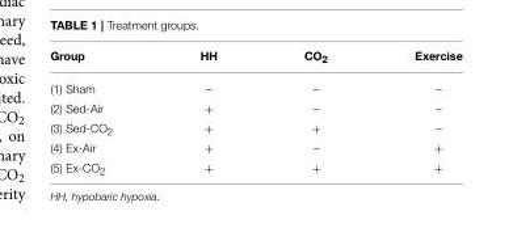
<table><thead><tr><td>Group</td><td>HH</td><td>CO<sub>2</sub></td><td>Exercise</td></tr></thead><tbody><tr><td>(1) Sham</td><td>–</td><td>–</td><td>–</td></tr><tr><td>(2) Sed-Air</td><td>+</td><td>–</td><td>–</td></tr><tr><td>(3) Sed-CO<sub>2</sub></td><td>+</td><td>+</td><td>–</td></tr><tr><td>(4) Ex-Air</td><td>+</td><td>–</td><td>+</td></tr><tr><td>(5) Ex-CO<sub>2</sub></td><td>+</td><td>+</td><td>+</td></tr></tbody></table>